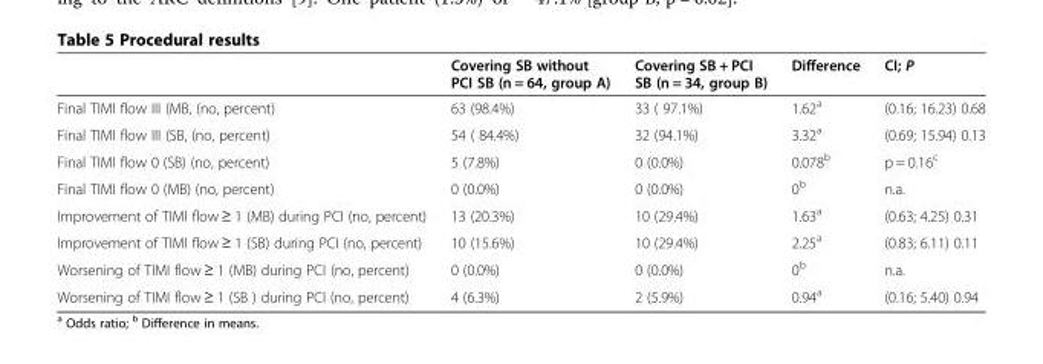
<table><thead><tr><td></td><td>Covering SB without PCI SB (n = 64, group A)</td><td>Covering SB + PCI SB (n = 34, group B)</td><td>Difference</td><td>CI; P</td></tr></thead><tbody><tr><td>Final TIMI flow III (MB, (no, percent)</td><td>63 (98.4%)</td><td>33 ( 97.1%)</td><td>1.62<sup>a</sup></td><td>(0.16; 16.23) 0.68</td></tr><tr><td>Final TIMI flow III (SB, (no, percent)</td><td>54 ( 84.4%)</td><td>32 (94.1%)</td><td>3.32<sup>a</sup></td><td>(0.69; 15.94) 0.13</td></tr><tr><td>Final TIMI flow 0 (SB) (no, percent)</td><td>5 (7.8%)</td><td>0 (0.0%)</td><td>0.078<sup>b</sup></td><td>p = 0.16<sup>c</sup></td></tr><tr><td>Final TIMI flow 0 (MB) (no, percent)</td><td>0 (0.0%)</td><td>0 (0.0%)</td><td>0<sup>b</sup></td><td>n.a.</td></tr><tr><td>Improvement of TIMI flow ≥ 1 (MB) during PCI (no, percent)</td><td>13 (20.3%)</td><td>10 (29.4%)</td><td>1.63<sup>a</sup></td><td>(0.63; 4.25) 0.31</td></tr><tr><td>Improvement of TIMI flow ≥ 1 (SB) during PCI (no, percent)</td><td>10 (15.6%)</td><td>10 (29.4%)</td><td>2.25<sup>a</sup></td><td>(0.83; 6.11) 0.11</td></tr><tr><td>Worsening of TIMI flow ≥ 1 (MB) during PCI (no, percent)</td><td>0 (0.0%)</td><td>0 (0.0%)</td><td>0<sup>b</sup></td><td>n.a.</td></tr><tr><td>Worsening of TIMI flow ≥ 1 (SB ) during PCI (no, percent)</td><td>4 (6.3%)</td><td>2 (5.9%)</td><td>0.94<sup>a</sup></td><td>(0.16; 5.40) 0.94</td></tr></tbody></table>